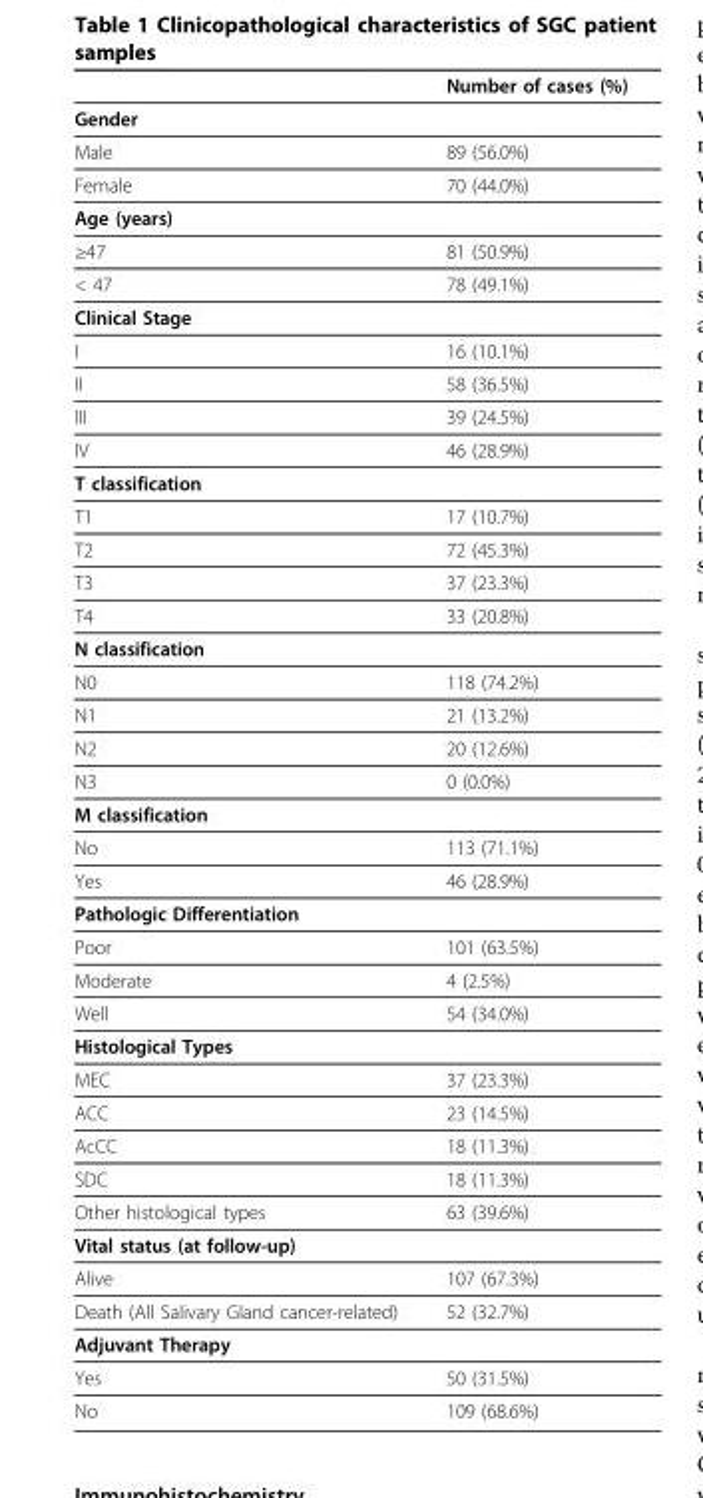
<table><thead><tr><td></td><td>Number of cases (%)</td></tr></thead><tbody><tr><td colspan="2">Gender</td></tr><tr><td>Male</td><td>89 (56.0%)</td></tr><tr><td>Female</td><td>70 (44.0%)</td></tr><tr><td colspan="2">Age (years)</td></tr><tr><td>≥47</td><td>81 (50.9%)</td></tr><tr><td>&lt; 47</td><td>78 (49.1%)</td></tr><tr><td colspan="2">Clinical Stage</td></tr><tr><td>I</td><td>16 (10.1%)</td></tr><tr><td>II</td><td>58 (36.5%)</td></tr><tr><td>III</td><td>39 (24.5%)</td></tr><tr><td>IV</td><td>46 (28.9%)</td></tr><tr><td colspan="2">T classification</td></tr><tr><td>T1</td><td>17 (10.7%)</td></tr><tr><td>T2</td><td>72 (45.3%)</td></tr><tr><td>T3</td><td>37 (23.3%)</td></tr><tr><td>T4</td><td>33 (20.8%)</td></tr><tr><td colspan="2">N classification</td></tr><tr><td>N0</td><td>118 (74.2%)</td></tr><tr><td>N1</td><td>21 (13.2%)</td></tr><tr><td>N2</td><td>20 (12.6%)</td></tr><tr><td>N3</td><td>0 (0.0%)</td></tr><tr><td colspan="2">M classification</td></tr><tr><td>No</td><td>113 (71.1%)</td></tr><tr><td>Yes</td><td>46 (28.9%)</td></tr><tr><td colspan="2">Pathologic Differentiation</td></tr><tr><td>Poor</td><td>101 (63.5%)</td></tr><tr><td>Moderate</td><td>4 (2.5%)</td></tr><tr><td>Well</td><td>54 (34.0%)</td></tr><tr><td colspan="2">Histological Types</td></tr><tr><td>MEC</td><td>37 (23.3%)</td></tr><tr><td>ACC</td><td>23 (14.5%)</td></tr><tr><td>AcCC</td><td>18 (11.3%)</td></tr><tr><td>SDC</td><td>18 (11.3%)</td></tr><tr><td>Other histological types</td><td>63 (39.6%)</td></tr><tr><td colspan="2">Vital status (at follow-up)</td></tr><tr><td>Alive</td><td>107 (67.3%)</td></tr><tr><td>Death (All Salivary Gland cancer-related)</td><td>52 (32.7%)</td></tr><tr><td colspan="2">Adjuvant Therapy</td></tr><tr><td>Yes</td><td>50 (31.5%)</td></tr><tr><td>No</td><td>109 (68.6%)</td></tr></tbody></table>